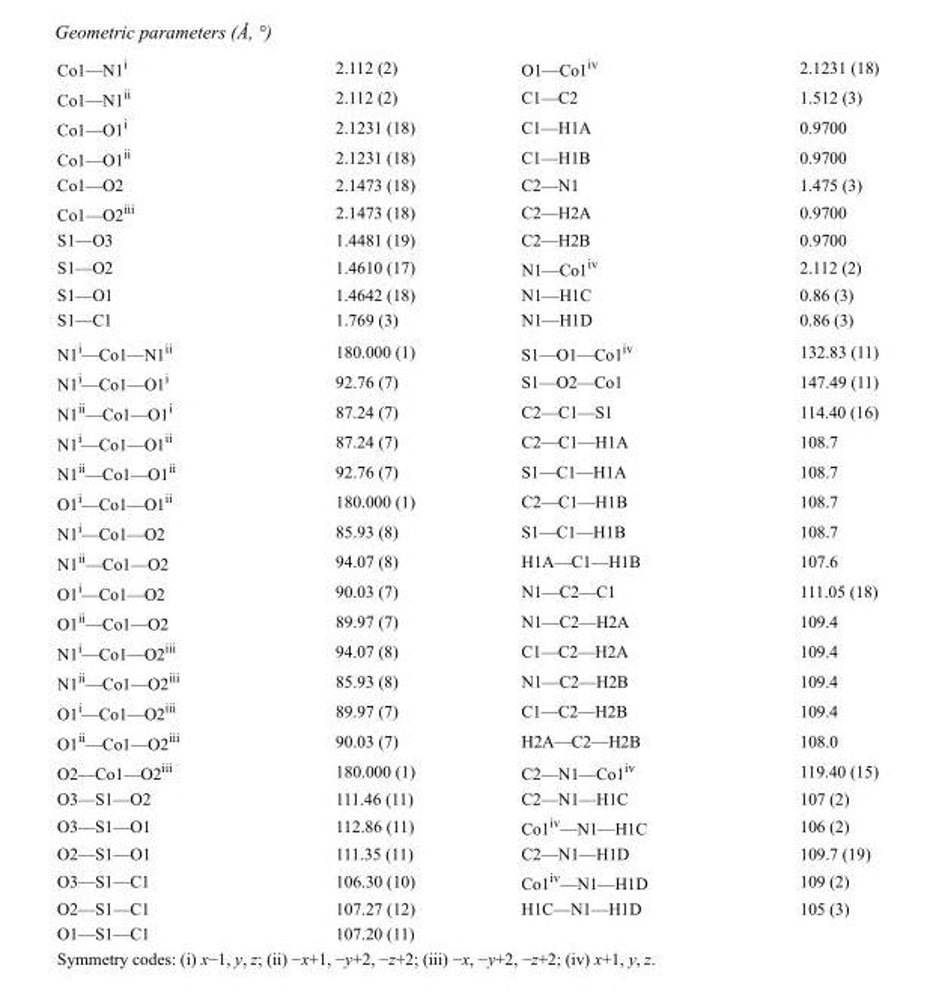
<table><tbody><tr><td>Co1—N1<sup>i</sup></td><td>2.112 (2)</td><td>O1—Co1<sup>iv</sup></td><td>2.1231 (18)</td></tr><tr><td>Co1—N1<sup>ii</sup></td><td>2.112 (2)</td><td>C1—C2</td><td>1.512 (3)</td></tr><tr><td>Co1—O1<sup>i</sup></td><td>2.1231 (18)</td><td>C1—H1A</td><td>0.9700</td></tr><tr><td>Co1—O1<sup>ii</sup></td><td>2.1231 (18)</td><td>C1—H1B</td><td>0.9700</td></tr><tr><td>Co1—O2</td><td>2.1473 (18)</td><td>C2—N1</td><td>1.475 (3)</td></tr><tr><td>Co1—O2<sup>iii</sup></td><td>2.1473 (18)</td><td>C2—H2A</td><td>0.9700</td></tr><tr><td>S1—O3</td><td>1.4481 (19)</td><td>C2—H2B</td><td>0.9700</td></tr><tr><td>S1—O2</td><td>1.4610 (17)</td><td>N1—Co1<sup>iv</sup></td><td>2.112 (2)</td></tr><tr><td>S1—O1</td><td>1.4642 (18)</td><td>N1—H1C</td><td>0.86 (3)</td></tr><tr><td>S1—C1</td><td>1.769 (3)</td><td>N1—H1D</td><td>0.86 (3)</td></tr><tr><td>N1<sup>i</sup>—Co1—N1<sup>ii</sup></td><td>180.000 (1)</td><td>S1—O1—Co1<sup>iv</sup></td><td>132.83 (11)</td></tr><tr><td>N1<sup>i</sup>—Co1—O1<sup>i</sup></td><td>92.76 (7)</td><td>S1—O2—Co1</td><td>147.49 (11)</td></tr><tr><td>N1<sup>ii</sup>—Co1—O1<sup>i</sup></td><td>87.24 (7)</td><td>C2—C1—S1</td><td>114.40 (16)</td></tr><tr><td>N1<sup>i</sup>—Co1—O1<sup>ii</sup></td><td>87.24 (7)</td><td>C2—C1—H1A</td><td>108.7</td></tr><tr><td>N1<sup>ii</sup>—Co1—O1<sup>ii</sup></td><td>92.76 (7)</td><td>S1—C1—H1A</td><td>108.7</td></tr><tr><td>O1<sup>i</sup>—Co1—O1<sup>ii</sup></td><td>180.000 (1)</td><td>C2—C1—H1B</td><td>108.7</td></tr><tr><td>N1<sup>i</sup>—Co1—O2</td><td>85.93 (8)</td><td>S1—C1—H1B</td><td>108.7</td></tr><tr><td>N1<sup>ii</sup>—Co1—O2</td><td>94.07 (8)</td><td>H1A—C1—H1B</td><td>107.6</td></tr><tr><td>O1<sup>i</sup>—Co1—O2</td><td>90.03 (7)</td><td>N1—C2—C1</td><td>111.05 (18)</td></tr><tr><td>O1<sup>ii</sup>—Co1—O2</td><td>89.97 (7)</td><td>N1—C2—H2A</td><td>109.4</td></tr><tr><td>N1<sup>i</sup>—Co1—O2<sup>iii</sup></td><td>94.07 (8)</td><td>C1—C2—H2A</td><td>109.4</td></tr><tr><td>N1<sup>ii</sup>—Co1—O2<sup>iii</sup></td><td>85.93 (8)</td><td>N1—C2—H2B</td><td>109.4</td></tr><tr><td>O1<sup>i</sup>—Co1—O2<sup>iii</sup></td><td>89.97 (7)</td><td>C1—C2—H2B</td><td>109.4</td></tr><tr><td>O1<sup>ii</sup>—Co1—O2<sup>iii</sup></td><td>90.03 (7)</td><td>H2A—C2—H2B</td><td>108.0</td></tr><tr><td>O2—Co1—O2<sup>iii</sup></td><td>180.000 (1)</td><td>C2—N1—Co1<sup>iv</sup></td><td>119.40 (15)</td></tr><tr><td>O3—S1—O2</td><td>111.46 (11)</td><td>C2—N1—H1C</td><td>107 (2)</td></tr><tr><td>O3—S1—O1</td><td>112.86 (11)</td><td>Co1<sup>iv</sup>—N1—H1C</td><td>106 (2)</td></tr><tr><td>O2—S1—O1</td><td>111.35 (11)</td><td>C2—N1—H1D</td><td>109.7 (19)</td></tr><tr><td>O3—S1—C1</td><td>106.30 (10)</td><td>Co1<sup>iv</sup>—N1—H1D</td><td>109 (2)</td></tr><tr><td>O2—S1—C1</td><td>107.27 (12)</td><td>H1C—N1—H1D</td><td>105 (3)</td></tr><tr><td>O1—S1—C1</td><td>107.20 (11)</td><td></td><td></td></tr></tbody></table>